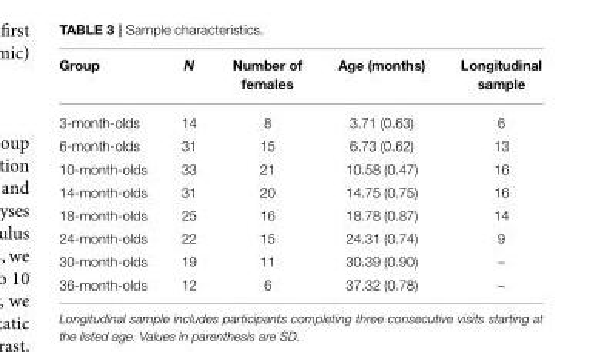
<table><thead><tr><td>Group</td><td>N</td><td>Number of females</td><td>Age (months)</td><td>Longitudinal sample</td></tr></thead><tbody><tr><td>3-month-olds</td><td>14</td><td>8</td><td>3.71 (0.63)</td><td>6</td></tr><tr><td>6-month-olds</td><td>31</td><td>15</td><td>6.73 (0.62)</td><td>13</td></tr><tr><td>10-month-olds</td><td>33</td><td>21</td><td>10.58 (0.47)</td><td>16</td></tr><tr><td>14-month-olds</td><td>31</td><td>20</td><td>14.75 (0.75)</td><td>16</td></tr><tr><td>18-month-olds</td><td>25</td><td>16</td><td>18.78 (0.87)</td><td>14</td></tr><tr><td>24-month-olds</td><td>22</td><td>15</td><td>24.31 (0.74)</td><td>9</td></tr><tr><td>30-month-olds</td><td>19</td><td>11</td><td>30.39 (0.90)</td><td>–</td></tr><tr><td>36-month-olds</td><td>12</td><td>6</td><td>37.32 (0.78)</td><td>–</td></tr></tbody></table>